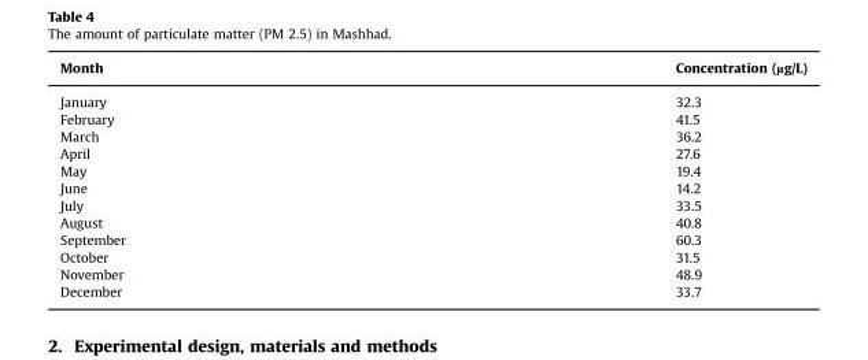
<table><thead><tr><td>Month</td><td>Concentration (µg/L)</td></tr></thead><tbody><tr><td>January</td><td>32.3</td></tr><tr><td>February</td><td>41.5</td></tr><tr><td>March</td><td>36.2</td></tr><tr><td>April</td><td>27.6</td></tr><tr><td>May</td><td>19.4</td></tr><tr><td>June</td><td>14.2</td></tr><tr><td>July</td><td>33.5</td></tr><tr><td>August</td><td>40.8</td></tr><tr><td>September</td><td>60.3</td></tr><tr><td>October</td><td>31.5</td></tr><tr><td>November</td><td>48.9</td></tr><tr><td>December</td><td>33.7</td></tr></tbody></table>